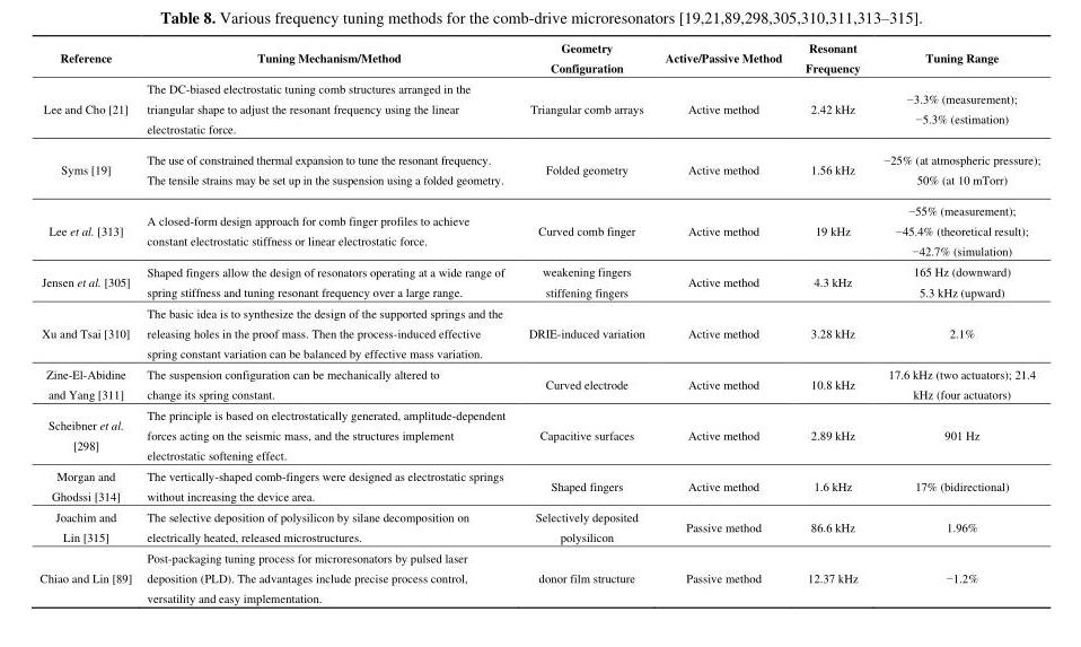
<table><thead><tr><td>Reference</td><td>Tuning Mechanism/Method</td><td>Geometry Configuration</td><td>Active/Passive Method</td><td>Resonant Frequency</td><td>Tuning Range</td></tr></thead><tbody><tr><td>Lee and Cho [21]</td><td>The DC-biased electrostatic tuning comb structures arranged in the triangular shape to adjust the resonant frequency using the linear electrostatic force.</td><td>Triangular comb arrays</td><td>Active method</td><td>2.42 kHz</td><td>−3.3% (measurement); −5.3% (estimation)</td></tr><tr><td>Syms [19]</td><td>The use of constrained thermal expansion to tune the resonant frequency. The tensile strains may be set up in the suspension using a folded geometry.</td><td>Folded geometry</td><td>Active method</td><td>1.56 kHz</td><td>−25% (at atmospheric pressure); 50% (at 10 mTorr)</td></tr><tr><td>Lee et al. [313]</td><td>A closed-form design approach for comb finger profiles to achieve constant electrostatic stiffness or linear electrostatic force.</td><td>Curved comb finger</td><td>Active method</td><td>19 kHz</td><td>−55% (measurement); −45.4% (theoretical result); −42.7% (simulation)</td></tr><tr><td rowspan="2">Jensen et al. [305]</td><td rowspan="2">Shaped fingers allow the design of resonators operating at a wide range of spring stiffness and tuning resonant frequency over a large range.</td><td>weakening fingers</td><td rowspan="2">Active method</td><td rowspan="2">4.3 kHz</td><td>165 Hz (downward)</td></tr><tr><td>stiffening fingers</td><td>5.3 kHz (upward)</td></tr><tr><td>Xu and Tsai [310]</td><td>The basic idea is to synthesize the design of the supported springs and the releasing holes in the proof mass. Then the process-induced effective spring constant variation can be balanced by effective mass variation.</td><td>DRIE-induced variation</td><td>Active method</td><td>3.28 kHz</td><td>2.1%</td></tr><tr><td>Zine-El-Abidine and Yang [311]</td><td>The suspension configuration can be mechanically altered to change its spring constant.</td><td>Curved electrode</td><td>Active method</td><td>10.8 kHz</td><td>17.6 kHz (two actuators); 21.4 kHz (four actuators)</td></tr><tr><td>Scheibner et al. [298]</td><td>The principle is based on electrostatically generated, amplitude-dependent forces acting on the seismic mass, and the structures implement electrostatic softening effect.</td><td>Capacitive surfaces</td><td>Active method</td><td>2.89 kHz</td><td>901 Hz</td></tr><tr><td>Morgan and Ghodssi [314]</td><td>The vertically-shaped comb-fingers were designed as electrostatic springs without increasing the device area.</td><td>Shaped fingers</td><td>Active method</td><td>1.6 kHz</td><td>17% (bidirectional)</td></tr><tr><td>Joachim and Lin [315]</td><td>The selective deposition of polysilicon by silane decomposition on electrically heated, released microstructures.</td><td>Selectively deposited polysilicon</td><td>Passive method</td><td>86.6 kHz</td><td>1.96%</td></tr><tr><td>Chiao and Lin [89]</td><td>Post-packaging tuning process for microresonators by pulsed laser deposition (PLD). The advantages include precise process control, versatility and easy implementation.</td><td>donor film structure</td><td>Passive method</td><td>12.37 kHz</td><td>−1.2%</td></tr></tbody></table>